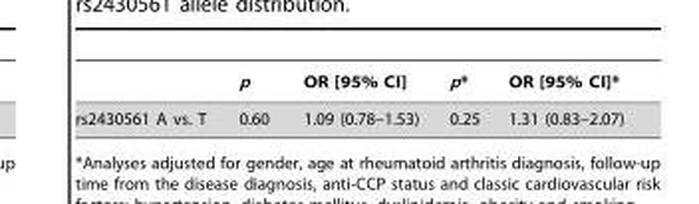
<table><thead><tr><td></td><td>p</td><td>OR [95% CI]</td><td>p*</td><td>OR [95% CI]*</td></tr></thead><tbody><tr><td>rs2430561 A vs. T</td><td>0.60</td><td>1.09 (0.78–1.53)</td><td>0.25</td><td>1.31 (0.83–2.07)</td></tr></tbody></table>